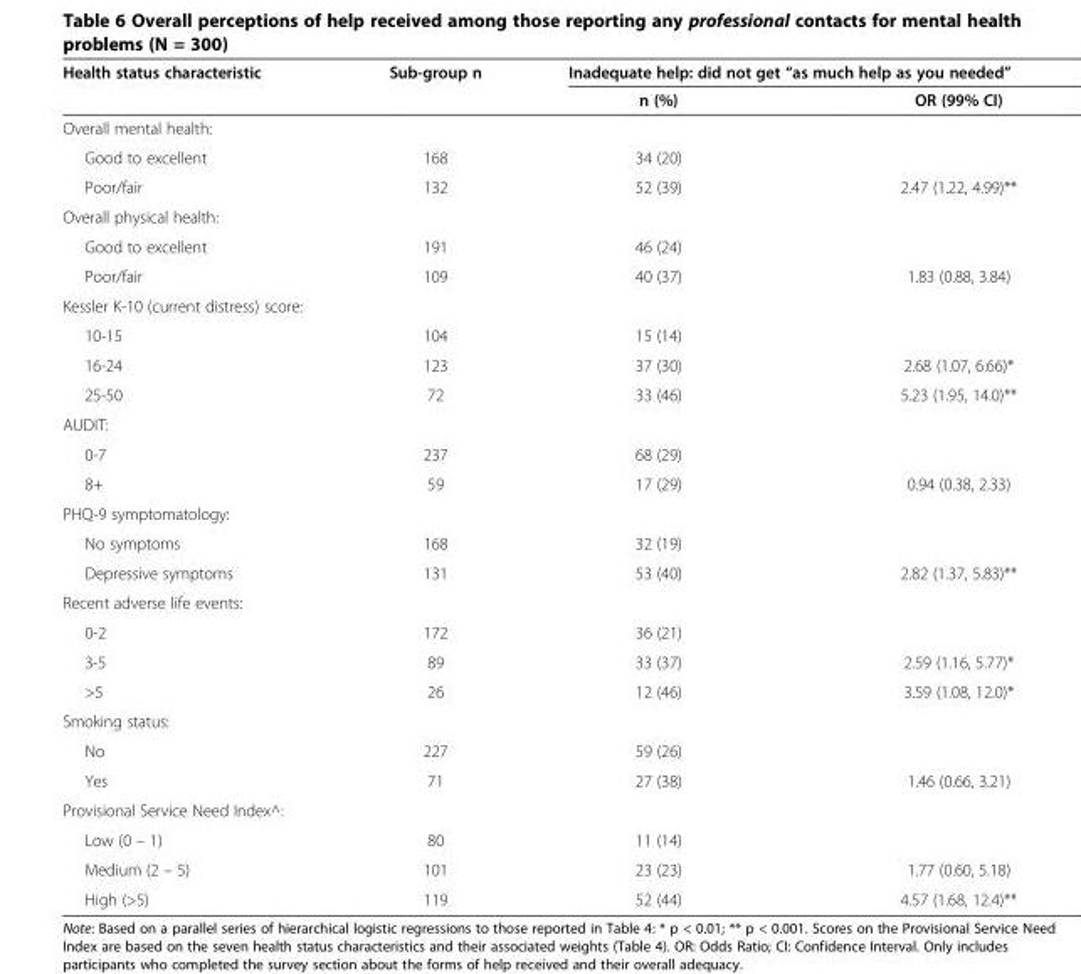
<table><thead><tr><td rowspan="2">Health status characteristic</td><td rowspan="2">Sub-group n</td><td colspan="2">Inadequate help: did not get “as much help as you needed”</td></tr><tr><td>n (%)</td><td>OR (99% CI)</td></tr></thead><tbody><tr><td colspan="4">Overall mental health:</td></tr><tr><td>Good to excellent</td><td>168</td><td>34 (20)</td><td></td></tr><tr><td>Poor/fair</td><td>132</td><td>52 (39)</td><td>2.47 (1.22, 4.99)**</td></tr><tr><td colspan="4">Overall physical health:</td></tr><tr><td>Good to excellent</td><td>191</td><td>46 (24)</td><td></td></tr><tr><td>Poor/fair</td><td>109</td><td>40 (37)</td><td>1.83 (0.88, 3.84)</td></tr><tr><td colspan="4">Kessler K-10 (current distress) score:</td></tr><tr><td>10-15</td><td>104</td><td>15 (14)</td><td></td></tr><tr><td>16-24</td><td>123</td><td>37 (30)</td><td>2.68 (1.07, 6.66)*</td></tr><tr><td>25-50</td><td>72</td><td>33 (46)</td><td>5.23 (1.95, 14.0)**</td></tr><tr><td colspan="4">AUDIT:</td></tr><tr><td>0-7</td><td>237</td><td>68 (29)</td><td></td></tr><tr><td>8+</td><td>59</td><td>17 (29)</td><td>0.94 (0.38, 2.33)</td></tr><tr><td colspan="4">PHQ-9 symptomatology:</td></tr><tr><td>No symptoms</td><td>168</td><td>32 (19)</td><td></td></tr><tr><td>Depressive symptoms</td><td>131</td><td>53 (40)</td><td>2.82 (1.37, 5.83)**</td></tr><tr><td colspan="4">Recent adverse life events:</td></tr><tr><td>0-2</td><td>172</td><td>36 (21)</td><td></td></tr><tr><td>3-5</td><td>89</td><td>33 (37)</td><td>2.59 (1.16, 5.77)*</td></tr><tr><td>&gt;5</td><td>26</td><td>12 (46)</td><td>3.59 (1.08, 12.0)*</td></tr><tr><td colspan="4">Smoking status:</td></tr><tr><td>No</td><td>227</td><td>59 (26)</td><td></td></tr><tr><td>Yes</td><td>71</td><td>27 (38)</td><td>1.46 (0.66, 3.21)</td></tr><tr><td colspan="4">Provisional Service Need Index^:</td></tr><tr><td>Low (0 – 1)</td><td>80</td><td>11 (14)</td><td></td></tr><tr><td>Medium (2 – 5)</td><td>101</td><td>23 (23)</td><td>1.77 (0.60, 5.18)</td></tr><tr><td>High (&gt;5)</td><td>119</td><td>52 (44)</td><td>4.57 (1.68, 12.4)**</td></tr></tbody></table>